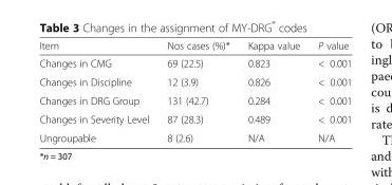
<table><thead><tr><td>Item</td><td>Nos cases (%)*</td><td>Kappa value</td><td>P value</td></tr></thead><tbody><tr><td>Changes in CMG</td><td>69 (22.5)</td><td>0.823</td><td>&lt; 0.001</td></tr><tr><td>Changes in Discipline</td><td>12 (3.9)</td><td>0.826</td><td>&lt; 0.001</td></tr><tr><td>Changes in DRG Group</td><td>131 (42.7)</td><td>0.284</td><td>&lt; 0.001</td></tr><tr><td>Changes in Severity Level</td><td>87 (28.3)</td><td>0.489</td><td>&lt; 0.001</td></tr><tr><td>Ungroupable</td><td>8 (2.6)</td><td>N/A</td><td>N/A</td></tr></tbody></table>